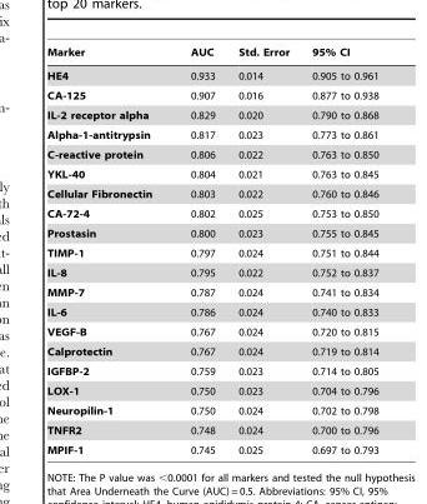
<table><thead><tr><td>Marker</td><td>AUC</td><td>Std. Error</td><td>95% CI</td></tr></thead><tbody><tr><td>HE4</td><td>0.933</td><td>0.014</td><td>0.905 to 0.961</td></tr><tr><td>CA-125</td><td>0.907</td><td>0.016</td><td>0.877 to 0.938</td></tr><tr><td>IL-2 receptor alpha</td><td>0.829</td><td>0.020</td><td>0.790 to 0.868</td></tr><tr><td>Alpha-1-antitrypsin</td><td>0.817</td><td>0.023</td><td>0.773 to 0.861</td></tr><tr><td>C-reactive protein</td><td>0.806</td><td>0.022</td><td>0.763 to 0.850</td></tr><tr><td>YKL-40</td><td>0.804</td><td>0.021</td><td>0.763 to 0.845</td></tr><tr><td>Cellular Fibronectin</td><td>0.803</td><td>0.022</td><td>0.760 to 0.846</td></tr><tr><td>CA-72-4</td><td>0.802</td><td>0.025</td><td>0.753 to 0.850</td></tr><tr><td>Prostasin</td><td>0.800</td><td>0.023</td><td>0.755 to 0.845</td></tr><tr><td>TIMP-1</td><td>0.797</td><td>0.024</td><td>0.751 to 0.844</td></tr><tr><td>IL-8</td><td>0.795</td><td>0.022</td><td>0.752 to 0.837</td></tr><tr><td>MMP-7</td><td>0.787</td><td>0.024</td><td>0.741 to 0.834</td></tr><tr><td>IL-6</td><td>0.786</td><td>0.024</td><td>0.740 to 0.833</td></tr><tr><td>VEGF-B</td><td>0.767</td><td>0.024</td><td>0.720 to 0.815</td></tr><tr><td>Calprotectin</td><td>0.767</td><td>0.024</td><td>0.719 to 0.814</td></tr><tr><td>IGFBP-2</td><td>0.759</td><td>0.023</td><td>0.714 to 0.805</td></tr><tr><td>LOX-1</td><td>0.750</td><td>0.023</td><td>0.704 to 0.796</td></tr><tr><td>Neuropilin-1</td><td>0.750</td><td>0.024</td><td>0.702 to 0.798</td></tr><tr><td>TNFR2</td><td>0.748</td><td>0.024</td><td>0.700 to 0.796</td></tr><tr><td>MPIF-1</td><td>0.745</td><td>0.025</td><td>0.697 to 0.793</td></tr></tbody></table>